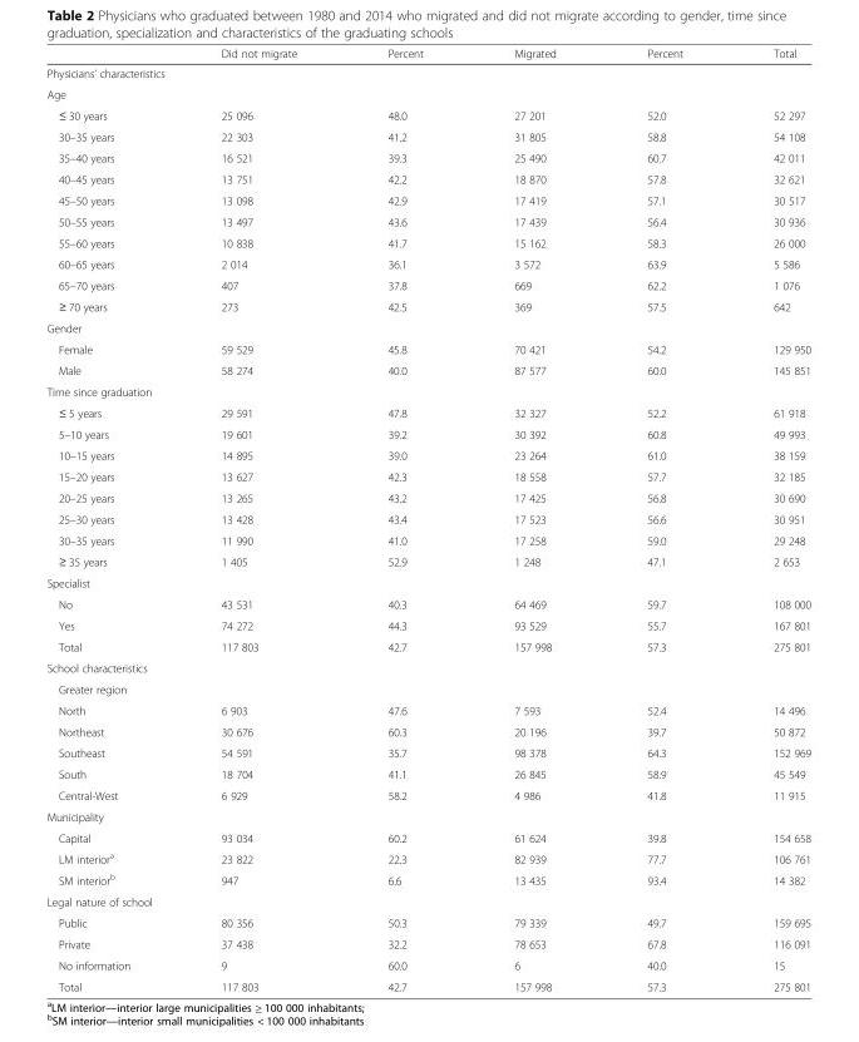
<table><thead><tr><td></td><td>Did not migrate</td><td>Percent</td><td>Migrated</td><td>Percent</td><td>Total</td></tr></thead><tbody><tr><td colspan="6">Physicians’ characteristics</td></tr><tr><td colspan="6">Age</td></tr><tr><td>≤ 30 years</td><td>25 096</td><td>48.0</td><td>27 201</td><td>52.0</td><td>52 297</td></tr><tr><td>30–35 years</td><td>22 303</td><td>41.2</td><td>31 805</td><td>58.8</td><td>54 108</td></tr><tr><td>35–40 years</td><td>16 521</td><td>39.3</td><td>25 490</td><td>60.7</td><td>42 011</td></tr><tr><td>40–45 years</td><td>13 751</td><td>42.2</td><td>18 870</td><td>57.8</td><td>32 621</td></tr><tr><td>45–50 years</td><td>13 098</td><td>42.9</td><td>17 419</td><td>57.1</td><td>30 517</td></tr><tr><td>50–55 years</td><td>13 497</td><td>43.6</td><td>17 439</td><td>56.4</td><td>30 936</td></tr><tr><td>55–60 years</td><td>10 838</td><td>41.7</td><td>15 162</td><td>58.3</td><td>26 000</td></tr><tr><td>60–65 years</td><td>2 014</td><td>36.1</td><td>3 572</td><td>63.9</td><td>5 586</td></tr><tr><td>65–70 years</td><td>407</td><td>37.8</td><td>669</td><td>62.2</td><td>1 076</td></tr><tr><td>≥ 70 years</td><td>273</td><td>42.5</td><td>369</td><td>57.5</td><td>642</td></tr><tr><td colspan="6">Gender</td></tr><tr><td>Female</td><td>59 529</td><td>45.8</td><td>70 421</td><td>54.2</td><td>129 950</td></tr><tr><td>Male</td><td>58 274</td><td>40.0</td><td>87 577</td><td>60.0</td><td>145 851</td></tr><tr><td colspan="6">Time since graduation</td></tr><tr><td>≤ 5 years</td><td>29 591</td><td>47.8</td><td>32 327</td><td>52.2</td><td>61 918</td></tr><tr><td>5–10 years</td><td>19 601</td><td>39.2</td><td>30 392</td><td>60.8</td><td>49 993</td></tr><tr><td>10–15 years</td><td>14 895</td><td>39.0</td><td>23 264</td><td>61.0</td><td>38 159</td></tr><tr><td>15–20 years</td><td>13 627</td><td>42.3</td><td>18 558</td><td>57.7</td><td>32 185</td></tr><tr><td>20–25 years</td><td>13 265</td><td>43.2</td><td>17 425</td><td>56.8</td><td>30 690</td></tr><tr><td>25–30 years</td><td>13 428</td><td>43.4</td><td>17 523</td><td>56.6</td><td>30 951</td></tr><tr><td>30–35 years</td><td>11 990</td><td>41.0</td><td>17 258</td><td>59.0</td><td>29 248</td></tr><tr><td>≥ 35 years</td><td>1 405</td><td>52.9</td><td>1 248</td><td>47.1</td><td>2 653</td></tr><tr><td colspan="6">Specialist</td></tr><tr><td>No</td><td>43 531</td><td>40.3</td><td>64 469</td><td>59.7</td><td>108 000</td></tr><tr><td>Yes</td><td>74 272</td><td>44.3</td><td>93 529</td><td>55.7</td><td>167 801</td></tr><tr><td>Total</td><td>117 803</td><td>42.7</td><td>157 998</td><td>57.3</td><td>275 801</td></tr><tr><td colspan="6">School characteristics</td></tr><tr><td colspan="6">Greater region</td></tr><tr><td>North</td><td>6 903</td><td>47.6</td><td>7 593</td><td>52.4</td><td>14 496</td></tr><tr><td>Northeast</td><td>30 676</td><td>60.3</td><td>20 196</td><td>39.7</td><td>50 872</td></tr><tr><td>Southeast</td><td>54 591</td><td>35.7</td><td>98 378</td><td>64.3</td><td>152 969</td></tr><tr><td>South</td><td>18 704</td><td>41.1</td><td>26 845</td><td>58.9</td><td>45 549</td></tr><tr><td>Central-West</td><td>6 929</td><td>58.2</td><td>4 986</td><td>41.8</td><td>11 915</td></tr><tr><td colspan="6">Municipality</td></tr><tr><td>Capital</td><td>93 034</td><td>60.2</td><td>61 624</td><td>39.8</td><td>154 658</td></tr><tr><td>LM interior<sup>a</sup></td><td>23 822</td><td>22.3</td><td>82 939</td><td>77.7</td><td>106 761</td></tr><tr><td>SM interior<sup>b</sup></td><td>947</td><td>6.6</td><td>13 435</td><td>93.4</td><td>14 382</td></tr><tr><td colspan="6">Legal nature of school</td></tr><tr><td>Public</td><td>80 356</td><td>50.3</td><td>79 339</td><td>49.7</td><td>159 695</td></tr><tr><td>Private</td><td>37 438</td><td>32.2</td><td>78 653</td><td>67.8</td><td>116 091</td></tr><tr><td>No information</td><td>9</td><td>60.0</td><td>6</td><td>40.0</td><td>15</td></tr><tr><td>Total</td><td>117 803</td><td>42.7</td><td>157 998</td><td>57.3</td><td>275 801</td></tr></tbody></table>